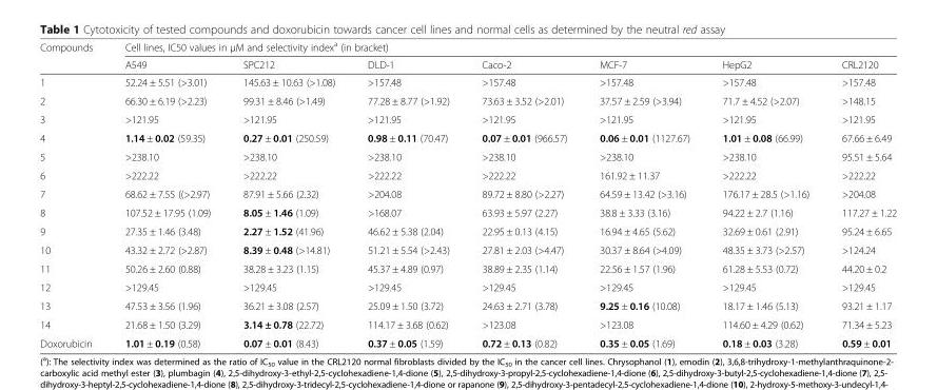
<table><thead><tr><td rowspan="2">Compounds</td><td colspan="7">Cell lines, IC50 values in μM and selectivity index<sup>a</sup> (in bracket)</td></tr><tr><td>A549</td><td>SPC212</td><td>DLD-1</td><td>Caco-2</td><td>MCF-7</td><td>HepG2</td><td>CRL2120</td></tr></thead><tbody><tr><td>1</td><td>52.24 ± 5.51 (&gt;3.01)</td><td>145.63 ± 10.63 (&gt;1.08)</td><td>&gt;157.48</td><td>&gt;157.48</td><td>&gt;157.48</td><td>&gt;157.48</td><td>&gt;157.48</td></tr><tr><td>2</td><td>66.30 ± 6.19 (&gt;2.23)</td><td>99.31 ± 8.46 (&gt;1.49)</td><td>77.28 ± 8.77 (&gt;1.92)</td><td>73.63 ± 3.52 (&gt;2.01)</td><td>37.57 ± 2.59 (&gt;3.94)</td><td>71.7 ± 4.52 (&gt;2.07)</td><td>&gt;148.15</td></tr><tr><td>3</td><td>&gt;121.95</td><td>&gt;121.95</td><td>&gt;121.95</td><td>&gt;121.95</td><td>&gt;121.95</td><td>&gt;121.95</td><td>&gt;121.95</td></tr><tr><td>4</td><td>1.14 ± 0.02 (59.35)</td><td>0.27 ± 0.01 (250.59)</td><td>0.98 ± 0.11 (70.47)</td><td>0.07 ± 0.01 (966.57)</td><td>0.06 ± 0.01 (1127.67)</td><td>1.01 ± 0.08 (66.99)</td><td>67.66 ± 6.49</td></tr><tr><td>5</td><td>&gt;238.10</td><td>&gt;238.10</td><td>&gt;238.10</td><td>&gt;238.10</td><td>&gt;238.10</td><td>&gt;238.10</td><td>95.51 ± 5.64</td></tr><tr><td>6</td><td>&gt;222.22</td><td>&gt;222.22</td><td>&gt;222.22</td><td>&gt;222.22</td><td>161.92 ± 11.37</td><td>&gt;222.22</td><td>&gt;222.22</td></tr><tr><td>7</td><td>68.62 ± 7.55 ((&gt;2.97)</td><td>87.91 ± 5.66 (2.32)</td><td>&gt;204.08</td><td>89.72 ± 8.80 (&gt;2.27)</td><td>64.59 ± 13.42 (&gt;3.16)</td><td>176.17 ± 28.5 (&gt;1.16)</td><td>&gt;204.08</td></tr><tr><td>8</td><td>107.52 ± 17.95 (1.09)</td><td>8.05 ± 1.46 (1.09)</td><td>&gt;168.07</td><td>63.93 ± 5.97 (2.27)</td><td>38.8 ± 3.33 (3.16)</td><td>94.22 ± 2.7 (1.16)</td><td>117.27 ± 1.22</td></tr><tr><td>9</td><td>27.35 ± 1.46 (3.48)</td><td>2.27 ± 1.52 (41.96)</td><td>46.62 ± 5.38 (2.04)</td><td>22.95 ± 0.13 (4.15)</td><td>16.94 ± 4.65 (5.62)</td><td>32.69 ± 0.61 (2.91)</td><td>95.24 ± 6.65</td></tr><tr><td>10</td><td>43.32 ± 2.72 (&gt;2.87)</td><td>8.39 ± 0.48 (&gt;14.81)</td><td>51.21 ± 5.54 (&gt;2.43)</td><td>27.81 ± 2.03 (&gt;4.47)</td><td>30.37 ± 8.64 (&gt;4.09)</td><td>48.35 ± 3.73 (&gt;2.57)</td><td>&gt;124.24</td></tr><tr><td>11</td><td>50.26 ± 2.60 (0.88)</td><td>38.28 ± 3.23 (1.15)</td><td>45.37 ± 4.89 (0.97)</td><td>38.89 ± 2.35 (1.14)</td><td>22.56 ± 1.57 (1.96)</td><td>61.28 ± 5.53 (0.72)</td><td>44.20 ± 0.2</td></tr><tr><td>12</td><td>&gt;129.45</td><td>&gt;129.45</td><td>&gt;129.45</td><td>&gt;129.45</td><td>&gt;129.45</td><td>&gt;129.45</td><td>&gt;129.45</td></tr><tr><td>13</td><td>47.53 ± 3.56 (1.96)</td><td>36.21 ± 3.08 (2.57)</td><td>25.09 ± 1.50 (3.72)</td><td>24.63 ± 2.71 (3.78)</td><td>9.25 ± 0.16 (10.08)</td><td>18.17 ± 1.46 (5.13)</td><td>93.21 ± 1.17</td></tr><tr><td>14</td><td>21.68 ± 1.50 (3.29)</td><td>3.14 ± 0.78 (22.72)</td><td>114.17 ± 3.68 (0.62)</td><td>&gt;123.08</td><td>&gt;123.08</td><td>114.60 ± 4.29 (0.62)</td><td>71.34 ± 5.23</td></tr><tr><td>Doxorubicin</td><td>1.01 ± 0.19 (0.58)</td><td>0.07 ± 0.01 (8.43)</td><td>0.37 ± 0.05 (1.59)</td><td>0.72 ± 0.13 (0.82)</td><td>0.35 ± 0.05 (1.69)</td><td>0.18 ± 0.03 (3.28)</td><td>0.59 ± 0.01</td></tr></tbody></table>